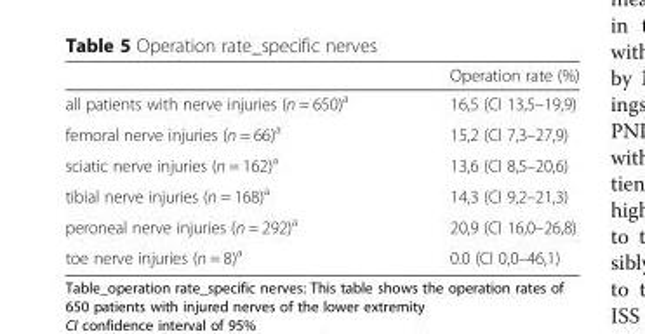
<table><thead><tr><td></td><td>Operation rate (%)</td></tr></thead><tbody><tr><td>all patients with nerve injuries (n = 650)<sup>a</sup></td><td>16,5 (CI 13,5–19,9)</td></tr><tr><td>femoral nerve injuries (n = 66)<sup>a</sup></td><td>15,2 (CI 7,3–27,9)</td></tr><tr><td>sciatic nerve injuries (n = 162)<sup>a</sup></td><td>13,6 (CI 8,5–20,6)</td></tr><tr><td>tibial nerve injuries (n = 168)<sup>a</sup></td><td>14,3 (CI 9,2–21,3)</td></tr><tr><td>peroneal nerve injuries (n = 292)<sup>a</sup></td><td>20,9 (CI 16,0–26,8)</td></tr><tr><td>toe nerve injuries (n = 8)<sup>a</sup></td><td>0.0 (CI 0,0–46,1)</td></tr></tbody></table>